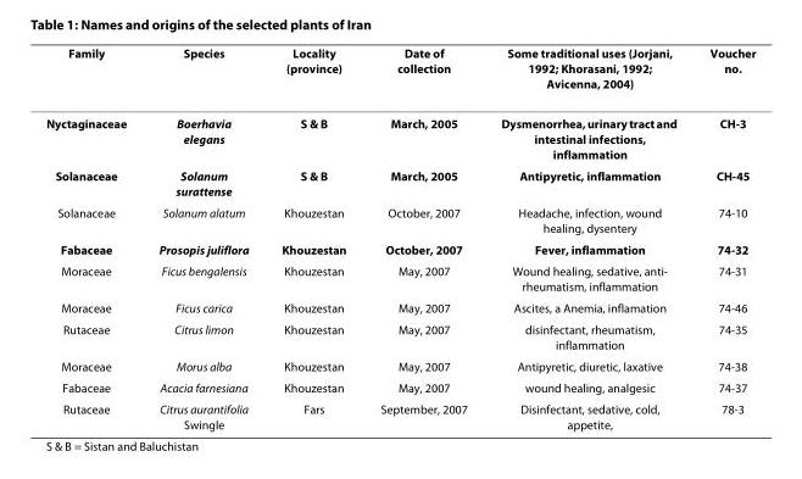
<table><thead><tr><td>Family</td><td>Species</td><td>Locality (province)</td><td>Date of collection</td><td>Some traditional uses (Jorjani, 1992; Khorasani, 1992; Avicenna, 2004)</td><td>Voucher no.</td></tr></thead><tbody><tr><td>Nyctaginaceae</td><td>Boerhavia elegans</td><td>S &amp; B</td><td>March, 2005</td><td>Dysmenorrhea, urinary tract and intestinal infections, inflammation</td><td>CH-3</td></tr><tr><td>Solanaceae</td><td>Solanum surattense</td><td>S &amp; B</td><td>March, 2005</td><td>Antipyretic, inflammation</td><td>CH-45</td></tr><tr><td>Solanaceae</td><td>Solanum alatum</td><td>Khouzestan</td><td>October, 2007</td><td>Headache, infection, wound healing, dysentery</td><td>74-10</td></tr><tr><td>Fabaceae</td><td>Prosopis juliflora</td><td>Khouzestan</td><td>October, 2007</td><td>Fever, inflammation</td><td>74-32</td></tr><tr><td>Moraceae</td><td>Ficus bengalensis</td><td>Khouzestan</td><td>May, 2007</td><td>Wound healing, sedative, anti- rheumatism, inflammation</td><td>74-31</td></tr><tr><td>Moraceae</td><td>Ficus carica</td><td>Khouzestan</td><td>May, 2007</td><td>Ascites, a Anemia, inflamation</td><td>74-46</td></tr><tr><td>Rutaceae</td><td>Citrus limon</td><td>Khouzestan</td><td>May, 2007</td><td>disinfectant, rheumatism, inflammation</td><td>74-35</td></tr><tr><td>Moraceae</td><td>Morus alba</td><td>Khouzestan</td><td>May, 2007</td><td>Antipyretic, diuretic, laxative</td><td>74-38</td></tr><tr><td>Fabaceae</td><td>Acacia farnesiana</td><td>Khouzestan</td><td>May, 2007</td><td>wound healing, analgesic</td><td>74-37</td></tr><tr><td>Rutaceae</td><td>Citrus aurantifolia Swingle</td><td>Fars</td><td>September, 2007</td><td>Disinfectant, sedative, cold, appetite,</td><td>78-3</td></tr></tbody></table>